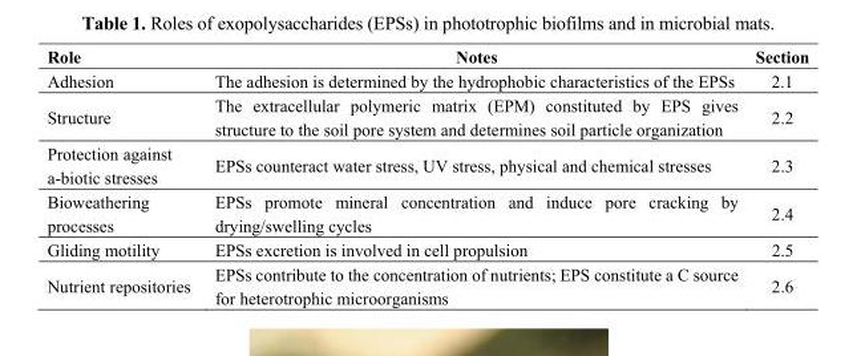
<table><thead><tr><td>Role</td><td>Notes</td><td>Section</td></tr></thead><tbody><tr><td>Adhesion</td><td>The adhesion is determined by the hydrophobic characteristics of the EPSs</td><td>2.1</td></tr><tr><td>Structure</td><td>The extracellular polymeric matrix (EPM) constituted by EPS gives structure to the soil pore system and determines soil particle organization</td><td>2.2</td></tr><tr><td>Protection against a-biotic stresses</td><td>EPSs counteract water stress, UV stress, physical and chemical stresses</td><td>2.3</td></tr><tr><td>Bioweathering processes</td><td>EPSs promote mineral concentration and induce pore cracking by drying/swelling cycles</td><td>2.4</td></tr><tr><td>Gliding motility</td><td>EPSs excretion is involved in cell propulsion</td><td>2.5</td></tr><tr><td>Nutrient repositories</td><td>EPSs contribute to the concentration of nutrients; EPS constitute a C source for heterotrophic microorganisms</td><td>2.6</td></tr></tbody></table>